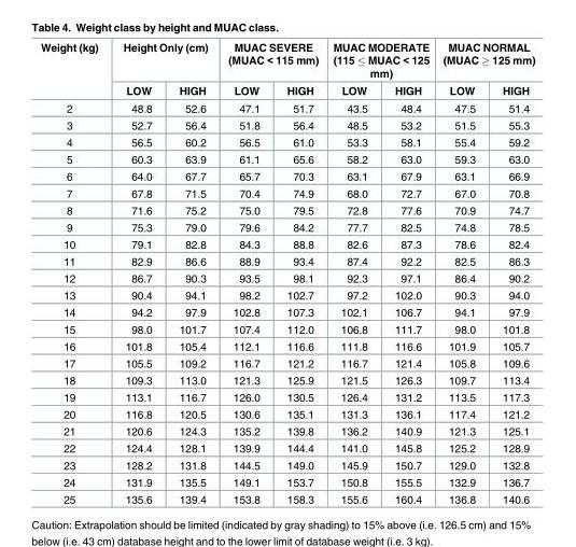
<table><thead><tr><td rowspan="2">Weight (kg)</td><td colspan="2">Height Only (cm)</td><td colspan="2">MUAC SEVERE (MUAC &lt; 115 mm)</td><td colspan="2">MUAC MODERATE (115 ≤ MUAC &lt; 125 mm)</td><td colspan="2">MUAC NORMAL (MUAC ≥ 125 mm)</td></tr><tr><td>LOW</td><td>HIGH</td><td>LOW</td><td>HIGH</td><td>LOW</td><td>HIGH</td><td>LOW</td><td>HIGH</td></tr></thead><tbody><tr><td>2</td><td>48.8</td><td>52.6</td><td>47.1</td><td>51.7</td><td>43.5</td><td>48.4</td><td>47.5</td><td>51.4</td></tr><tr><td>3</td><td>52.7</td><td>56.4</td><td>51.8</td><td>56.4</td><td>48.5</td><td>53.2</td><td>51.5</td><td>55.3</td></tr><tr><td>4</td><td>56.5</td><td>60.2</td><td>56.5</td><td>61.0</td><td>53.3</td><td>58.1</td><td>55.4</td><td>59.2</td></tr><tr><td>5</td><td>60.3</td><td>63.9</td><td>61.1</td><td>65.6</td><td>58.2</td><td>63.0</td><td>59.3</td><td>63.0</td></tr><tr><td>6</td><td>64.0</td><td>67.7</td><td>65.7</td><td>70.3</td><td>63.1</td><td>67.9</td><td>63.1</td><td>66.9</td></tr><tr><td>7</td><td>67.8</td><td>71.5</td><td>70.4</td><td>74.9</td><td>68.0</td><td>72.7</td><td>67.0</td><td>70.8</td></tr><tr><td>8</td><td>71.6</td><td>75.2</td><td>75.0</td><td>79.5</td><td>72.8</td><td>77.6</td><td>70.9</td><td>74.7</td></tr><tr><td>9</td><td>75.3</td><td>79.0</td><td>79.6</td><td>84.2</td><td>77.7</td><td>82.5</td><td>74.8</td><td>78.5</td></tr><tr><td>10</td><td>79.1</td><td>82.8</td><td>84.3</td><td>88.8</td><td>82.6</td><td>87.3</td><td>78.6</td><td>82.4</td></tr><tr><td>11</td><td>82.9</td><td>86.6</td><td>88.9</td><td>93.4</td><td>87.4</td><td>92.2</td><td>82.5</td><td>86.3</td></tr><tr><td>12</td><td>86.7</td><td>90.3</td><td>93.5</td><td>98.1</td><td>92.3</td><td>97.1</td><td>86.4</td><td>90.2</td></tr><tr><td>13</td><td>90.4</td><td>94.1</td><td>98.2</td><td>102.7</td><td>97.2</td><td>102.0</td><td>90.3</td><td>94.0</td></tr><tr><td>14</td><td>94.2</td><td>97.9</td><td>102.8</td><td>107.3</td><td>102.1</td><td>106.7</td><td>94.1</td><td>97.9</td></tr><tr><td>15</td><td>98.0</td><td>101.7</td><td>107.4</td><td>112.0</td><td>106.8</td><td>111.7</td><td>98.0</td><td>101.8</td></tr><tr><td>16</td><td>101.8</td><td>105.4</td><td>112.1</td><td>116.6</td><td>111.8</td><td>116.6</td><td>101.9</td><td>105.7</td></tr><tr><td>17</td><td>105.5</td><td>109.2</td><td>116.7</td><td>121.2</td><td>116.7</td><td>121.4</td><td>105.8</td><td>109.6</td></tr><tr><td>18</td><td>109.3</td><td>113.0</td><td>121.3</td><td>125.9</td><td>121.5</td><td>126.3</td><td>109.7</td><td>113.4</td></tr><tr><td>19</td><td>113.1</td><td>116.7</td><td>126.0</td><td>130.5</td><td>126.4</td><td>131.2</td><td>113.5</td><td>117.3</td></tr><tr><td>20</td><td>116.8</td><td>120.5</td><td>130.6</td><td>135.1</td><td>131.3</td><td>136.1</td><td>117.4</td><td>121.2</td></tr><tr><td>21</td><td>120.6</td><td>124.3</td><td>135.2</td><td>139.8</td><td>136.2</td><td>140.9</td><td>121.3</td><td>125.1</td></tr><tr><td>22</td><td>124.4</td><td>128.1</td><td>139.9</td><td>144.4</td><td>141.0</td><td>145.8</td><td>125.2</td><td>128.9</td></tr><tr><td>23</td><td>128.2</td><td>131.8</td><td>144.5</td><td>149.0</td><td>145.9</td><td>150.7</td><td>129.0</td><td>132.8</td></tr><tr><td>24</td><td>131.9</td><td>135.5</td><td>149.1</td><td>153.7</td><td>150.8</td><td>155.5</td><td>132.9</td><td>136.7</td></tr><tr><td>25</td><td>135.6</td><td>139.4</td><td>153.8</td><td>158.3</td><td>155.6</td><td>160.4</td><td>136.8</td><td>140.6</td></tr></tbody></table>